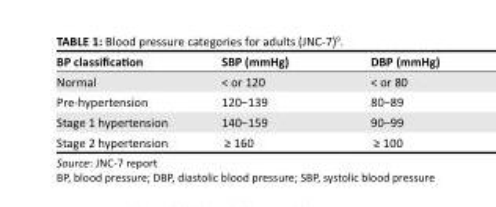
<table><thead><tr><td>BP classification</td><td>SBP (mmHg)</td><td>DBP (mmHg)</td></tr></thead><tbody><tr><td>Normal</td><td>&lt; or 120</td><td>&lt; or 80</td></tr><tr><td>Pre-hypertension</td><td>120−139</td><td>80−89</td></tr><tr><td>Stage 1 hypertension</td><td>140−159</td><td>90−99</td></tr><tr><td>Stage 2 hypertension</td><td>≥ 160</td><td>≥ 100</td></tr></tbody></table>